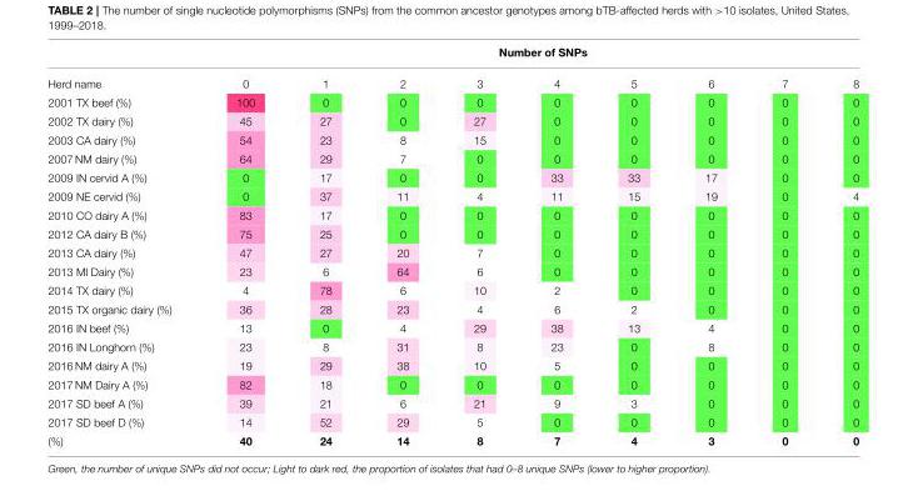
<table><thead><tr><td rowspan="2">Herd name</td><td colspan="9">Number of SNPs</td></tr><tr><td>0</td><td>1</td><td>2</td><td>3</td><td>4</td><td>5</td><td>6</td><td>7</td><td>8</td></tr></thead><tbody><tr><td>2001 TX beef (%)</td><td>100</td><td>0</td><td>0</td><td>0</td><td>0</td><td>0</td><td>0</td><td>0</td><td>0</td></tr><tr><td>2002 TX dairy (%)</td><td>45</td><td>27</td><td>0</td><td>27</td><td>0</td><td>0</td><td>0</td><td>0</td><td>0</td></tr><tr><td>2003 CA dairy (%)</td><td>54</td><td>23</td><td>8</td><td>15</td><td>0</td><td>0</td><td>0</td><td>0</td><td>0</td></tr><tr><td>2007 NM dairy (%)</td><td>64</td><td>29</td><td>7</td><td>0</td><td>0</td><td>0</td><td>0</td><td>0</td><td>0</td></tr><tr><td>2009 IN cervid A (%)</td><td>0</td><td>17</td><td>0</td><td>0</td><td>33</td><td>33</td><td>17</td><td>0</td><td>0</td></tr><tr><td>2009 NE cervid (%)</td><td>0</td><td>37</td><td>11</td><td>4</td><td>11</td><td>15</td><td>19</td><td>0</td><td>4</td></tr><tr><td>2010 CO dairy A (%)</td><td>83</td><td>17</td><td>0</td><td>0</td><td>0</td><td>0</td><td>0</td><td>0</td><td>0</td></tr><tr><td>2012 CA dairy B (%)</td><td>75</td><td>25</td><td>0</td><td>0</td><td>0</td><td>0</td><td>0</td><td>0</td><td>0</td></tr><tr><td>2013 CA dairy (%)</td><td>47</td><td>27</td><td>20</td><td>7</td><td>0</td><td>0</td><td>0</td><td>0</td><td>0</td></tr><tr><td>2013 MI Dairy (%)</td><td>23</td><td>6</td><td>64</td><td>6</td><td>0</td><td>0</td><td>0</td><td>0</td><td>0</td></tr><tr><td>2014 TX dairy (%)</td><td>4</td><td>78</td><td>6</td><td>10</td><td>2</td><td>0</td><td>0</td><td>0</td><td>0</td></tr><tr><td>2015 TX organic dairy (%)</td><td>36</td><td>28</td><td>23</td><td>4</td><td>6</td><td>2</td><td>0</td><td>0</td><td>0</td></tr><tr><td>2016 IN beef (%)</td><td>13</td><td>0</td><td>4</td><td>29</td><td>38</td><td>13</td><td>4</td><td>0</td><td>0</td></tr><tr><td>2016 IN Longhorn (%)</td><td>23</td><td>8</td><td>31</td><td>8</td><td>23</td><td>0</td><td>8</td><td>0</td><td>0</td></tr><tr><td>2016 NM dairy A (%)</td><td>19</td><td>29</td><td>38</td><td>10</td><td>5</td><td>0</td><td>0</td><td>0</td><td>0</td></tr><tr><td>2017 NM Dairy A (%)</td><td>82</td><td>18</td><td>0</td><td>0</td><td>0</td><td>0</td><td>0</td><td>0</td><td>0</td></tr><tr><td>2017 SD beef A (%)</td><td>39</td><td>21</td><td>6</td><td>21</td><td>9</td><td>3</td><td>0</td><td>0</td><td>0</td></tr><tr><td>2017 SD beef D (%)</td><td>14</td><td>52</td><td>29</td><td>5</td><td>0</td><td>0</td><td>0</td><td>0</td><td>0</td></tr><tr><td>(%)</td><td>40</td><td>24</td><td>14</td><td>8</td><td>7</td><td>4</td><td>3</td><td>0</td><td>0</td></tr></tbody></table>